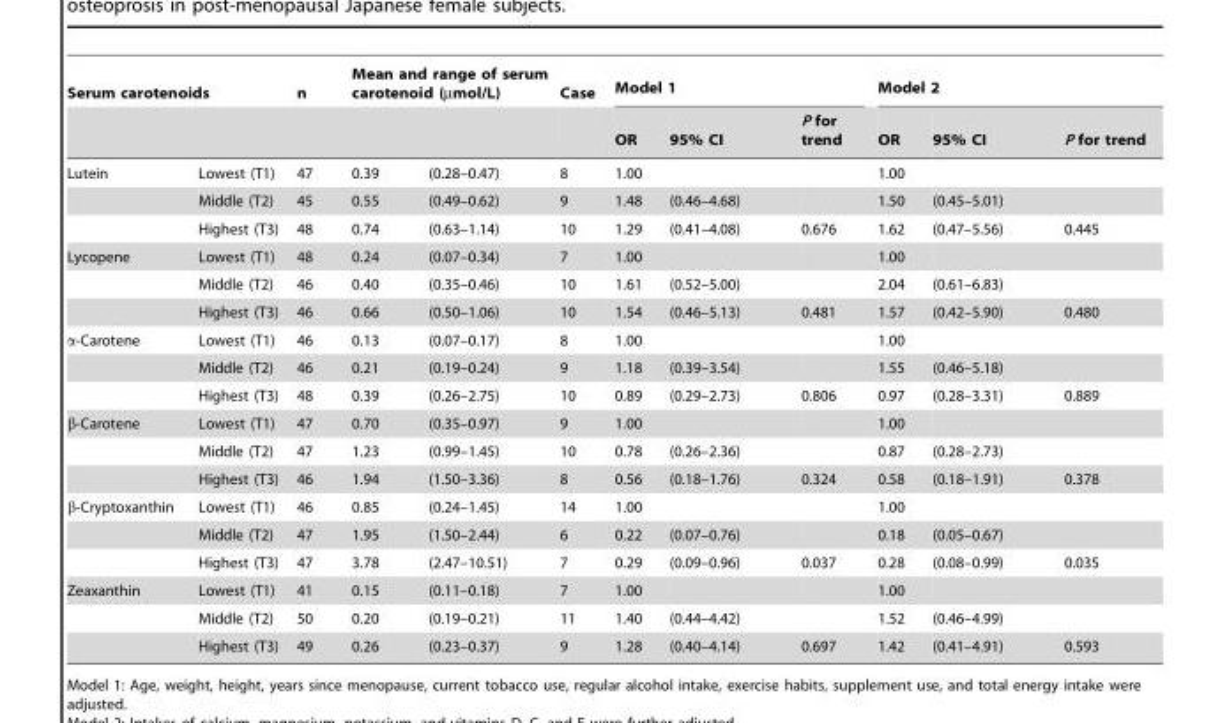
<table><thead><tr><td colspan="2">Serum carotenoids</td><td rowspan="2">n</td><td colspan="2">Mean and range of serum carotenoid (µmol/L)</td><td rowspan="2">Case</td><td colspan="3">Model 1</td><td colspan="3">Model 2</td></tr><tr><td></td><td></td><td></td><td></td><td>OR</td><td>95% CI</td><td>P for trend</td><td>OR</td><td>95% CI</td><td>P for trend</td></tr></thead><tbody><tr><td rowspan="3">Lutein</td><td>Lowest (T1)</td><td>47</td><td>0.39</td><td>(0.28–0.47)</td><td>8</td><td>1.00</td><td></td><td></td><td>1.00</td><td></td><td></td></tr><tr><td>Middle (T2)</td><td>45</td><td>0.55</td><td>(0.49–0.62)</td><td>9</td><td>1.48</td><td>(0.46–4.68)</td><td></td><td>1.50</td><td>(0.45–5.01)</td><td></td></tr><tr><td>Highest (T3)</td><td>48</td><td>0.74</td><td>(0.63–1.14)</td><td>10</td><td>1.29</td><td>(0.41–4.08)</td><td>0.676</td><td>1.62</td><td>(0.47–5.56)</td><td>0.445</td></tr><tr><td rowspan="3">Lycopene</td><td>Lowest (T1)</td><td>48</td><td>0.24</td><td>(0.07–0.34)</td><td>7</td><td>1.00</td><td></td><td></td><td>1.00</td><td></td><td></td></tr><tr><td>Middle (T2)</td><td>46</td><td>0.40</td><td>(0.35–0.46)</td><td>10</td><td>1.61</td><td>(0.52–5.00)</td><td></td><td>2.04</td><td>(0.61–6.83)</td><td></td></tr><tr><td>Highest (T3)</td><td>46</td><td>0.66</td><td>(0.50–1.06)</td><td>10</td><td>1.54</td><td>(0.46–5.13)</td><td>0.481</td><td>1.57</td><td>(0.42–5.90)</td><td>0.480</td></tr><tr><td rowspan="3">α-Carotene</td><td>Lowest (T1)</td><td>46</td><td>0.13</td><td>(0.07–0.17)</td><td>8</td><td>1.00</td><td></td><td></td><td>1.00</td><td></td><td></td></tr><tr><td>Middle (T2)</td><td>46</td><td>0.21</td><td>(0.19–0.24)</td><td>9</td><td>1.18</td><td>(0.39–3.54)</td><td></td><td>1.55</td><td>(0.46–5.18)</td><td></td></tr><tr><td>Highest (T3)</td><td>48</td><td>0.39</td><td>(0.26–2.75)</td><td>10</td><td>0.89</td><td>(0.29–2.73)</td><td>0.806</td><td>0.97</td><td>(0.28–3.31)</td><td>0.889</td></tr><tr><td rowspan="3">β-Carotene</td><td>Lowest (T1)</td><td>47</td><td>0.70</td><td>(0.35–0.97)</td><td>9</td><td>1.00</td><td></td><td></td><td>1.00</td><td></td><td></td></tr><tr><td>Middle (T2)</td><td>47</td><td>1.23</td><td>(0.99–1.45)</td><td>10</td><td>0.78</td><td>(0.26–2.36)</td><td></td><td>0.87</td><td>(0.28–2.73)</td><td></td></tr><tr><td>Highest (T3)</td><td>46</td><td>1.94</td><td>(1.50–3.36)</td><td>8</td><td>0.56</td><td>(0.18–1.76)</td><td>0.324</td><td>0.58</td><td>(0.18–1.91)</td><td>0.378</td></tr><tr><td rowspan="3">β-Cryptoxanthin</td><td>Lowest (T1)</td><td>46</td><td>0.85</td><td>(0.24–1.45)</td><td>14</td><td>1.00</td><td></td><td></td><td>1.00</td><td></td><td></td></tr><tr><td>Middle (T2)</td><td>47</td><td>1.95</td><td>(1.50–2.44)</td><td>6</td><td>0.22</td><td>(0.07–0.76)</td><td></td><td>0.18</td><td>(0.05–0.67)</td><td></td></tr><tr><td>Highest (T3)</td><td>47</td><td>3.78</td><td>(2.47–10.51)</td><td>7</td><td>0.29</td><td>(0.09–0.96)</td><td>0.037</td><td>0.28</td><td>(0.08–0.99)</td><td>0.035</td></tr><tr><td rowspan="3">Zeaxanthin</td><td>Lowest (T1)</td><td>41</td><td>0.15</td><td>(0.11–0.18)</td><td>7</td><td>1.00</td><td></td><td></td><td>1.00</td><td></td><td></td></tr><tr><td>Middle (T2)</td><td>50</td><td>0.20</td><td>(0.19–0.21)</td><td>11</td><td>1.40</td><td>(0.44–4.42)</td><td></td><td>1.52</td><td>(0.46–4.99)</td><td></td></tr><tr><td>Highest (T3)</td><td>49</td><td>0.26</td><td>(0.23–0.37)</td><td>9</td><td>1.28</td><td>(0.40–4.14)</td><td>0.697</td><td>1.42</td><td>(0.41–4.91)</td><td>0.593</td></tr></tbody></table>